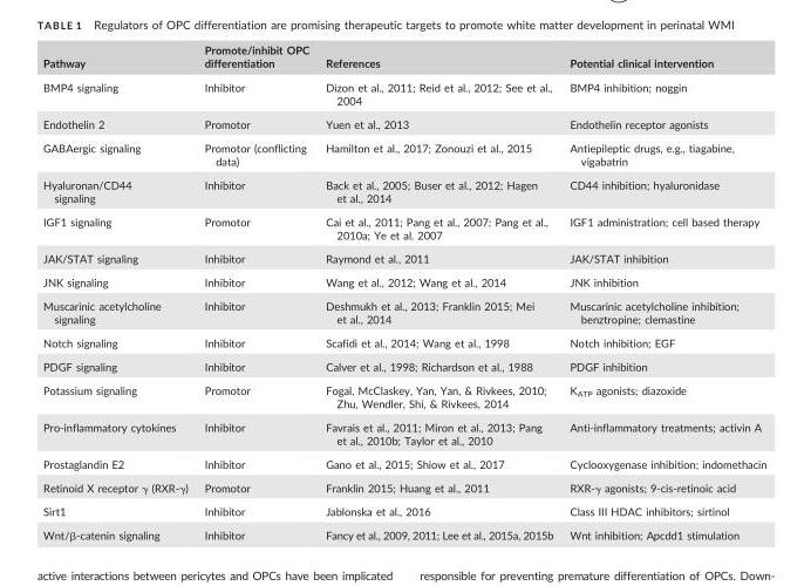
<table><thead><tr><td>Pathway</td><td>Promote/inhibit OPC differentiation</td><td>References</td><td>Potential clinical intervention</td></tr></thead><tbody><tr><td>BMP4 signaling</td><td>Inhibitor</td><td>Dizon et al., 2011; Reid et al., 2012; See et al., 2004</td><td>BMP4 inhibition; noggin</td></tr><tr><td>Endothelin 2</td><td>Promotor</td><td>Yuen et al., 2013</td><td>Endothelin receptor agonists</td></tr><tr><td>GABAergic signaling</td><td>Promotor (conflicting data)</td><td>Hamilton et al., 2017; Zonouzi et al., 2015</td><td>Antiepileptic drugs, e.g., tiagabine, vigabatrin</td></tr><tr><td>Hyaluronan/CD44 signaling</td><td>Inhibitor</td><td>Back et al., 2005; Buser et al., 2012; Hagen et al., 2014</td><td>CD44 inhibition; hyaluronidase</td></tr><tr><td>IGF1 signaling</td><td>Promotor</td><td>Cai et al., 2011; Pang et al., 2007; Pang et al., 2010a; Ye et al. 2007</td><td>IGF1 administration; cell based therapy</td></tr><tr><td>JAK/STAT signaling</td><td>Inhibitor</td><td>Raymond et al., 2011</td><td>JAK/STAT inhibition</td></tr><tr><td>JNK signaling</td><td>Inhibitor</td><td>Wang et al., 2012; Wang et al., 2014</td><td>JNK inhibition</td></tr><tr><td>Muscarinic acetylcholine signaling</td><td>Inhibitor</td><td>Deshmukh et al., 2013; Franklin 2015; Mei et al., 2014</td><td>Muscarinic acetylcholine inhibition; benztropine; clemastine</td></tr><tr><td>Notch signaling</td><td>Inhibitor</td><td>Scafidi et al., 2014; Wang et al., 1998</td><td>Notch inhibition; EGF</td></tr><tr><td>PDGF signaling</td><td>Inhibitor</td><td>Calver et al., 1998; Richardson et al., 1988</td><td>PDGF inhibition</td></tr><tr><td>Potassium signaling</td><td>Promotor</td><td>Fogal, McClaskey, Yan, Yan, &amp; Rivkees, 2010; Zhu, Wendler, Shi, &amp; Rivkees, 2014</td><td>K<sub>ATP</sub> agonists; diazoxide</td></tr><tr><td>Pro-inflammatory cytokines</td><td>Inhibitor</td><td>Favrais et al., 2011; Miron et al., 2013; Pang et al., 2010b; Taylor et al., 2010</td><td>Anti-inflammatory treatments; activin A</td></tr><tr><td>Prostaglandin E2</td><td>Inhibitor</td><td>Gano et al., 2015; Shiow et al., 2017</td><td>Cyclooxygenase inhibition; indomethacin</td></tr><tr><td>Retinoid X receptor γ (RXR-γ)</td><td>Promotor</td><td>Franklin 2015; Huang et al., 2011</td><td>RXR-γ agonists; 9-cis-retinoic acid</td></tr><tr><td>Sirt1</td><td>Inhibitor</td><td>Jablonska et al., 2016</td><td>Class III HDAC inhibitors; sirtinol</td></tr><tr><td>Wnt/β-catenin signaling</td><td>Inhibitor</td><td>Fancy et al., 2009, 2011; Lee et al., 2015a, 2015b</td><td>Wnt inhibition; Apcdd1 stimulation</td></tr></tbody></table>